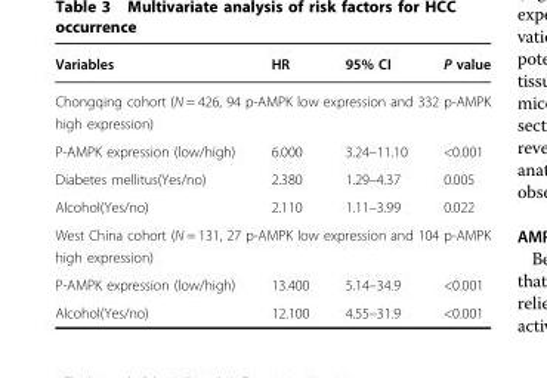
<table><thead><tr><td>Variables</td><td>HR</td><td>95% CI</td><td>P value</td></tr></thead><tbody><tr><td colspan="4">Chongqing cohort (N = 426, 94 p-AMPK low expression and 332 p-AMPK high expression)</td></tr><tr><td>P-AMPK expression (low/high)</td><td>6.000</td><td>3.24–11.10</td><td>&lt;0.001</td></tr><tr><td>Diabetes mellitus(Yes/no)</td><td>2.380</td><td>1.29–4.37</td><td>0.005</td></tr><tr><td>Alcohol(Yes/no)</td><td>2.110</td><td>1.11–3.99</td><td>0.022</td></tr><tr><td colspan="4">West China cohort (N = 131, 27 p-AMPK low expression and 104 p-AMPK high expression)</td></tr><tr><td>P-AMPK expression (low/high)</td><td>13.400</td><td>5.14–34.9</td><td>&lt;0.001</td></tr><tr><td>Alcohol(Yes/no)</td><td>12.100</td><td>4.55–31.9</td><td>&lt;0.001</td></tr></tbody></table>